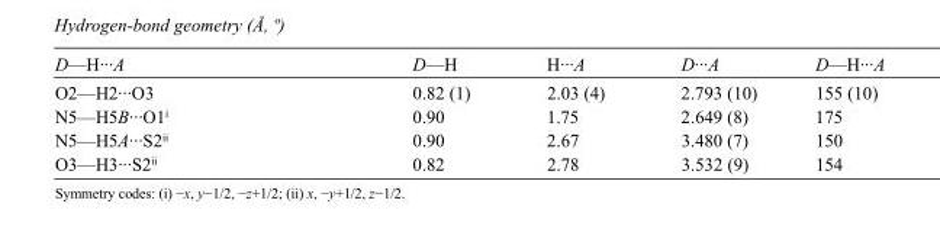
<table><tbody><tr><td>D—H···A</td><td>D—H</td><td>H···A</td><td>D···A</td><td>D—H···A</td></tr><tr><td>O2—H2···O3</td><td>0.82 (1)</td><td>2.03 (4)</td><td>2.793 (10)</td><td>155 (10)</td></tr><tr><td>N5—H5B···O1<sup>i</sup></td><td>0.90</td><td>1.75</td><td>2.649 (8)</td><td>175</td></tr><tr><td>N5—H5A···S2<sup>ii</sup></td><td>0.90</td><td>2.67</td><td>3.480 (7)</td><td>150</td></tr><tr><td>O3—H3···S2<sup>ii</sup></td><td>0.82</td><td>2.78</td><td>3.532 (9)</td><td>154</td></tr></tbody></table>